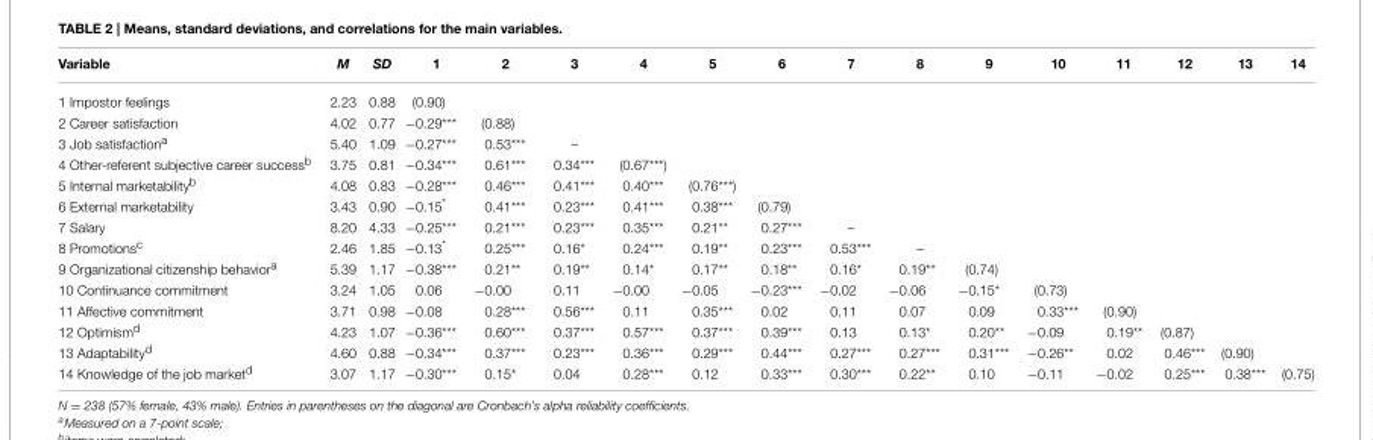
<table><thead><tr><td>Variable</td><td>M</td><td>SD</td><td>1</td><td>2</td><td>3</td><td>4</td><td>5</td><td>6</td><td>7</td><td>8</td><td>9</td><td>10</td><td>11</td><td>12</td><td>13</td><td>14</td></tr></thead><tbody><tr><td>1 Impostor feelings</td><td>2.23</td><td>0.88</td><td>(0.90)</td><td></td><td></td><td></td><td></td><td></td><td></td><td></td><td></td><td></td><td></td><td></td><td></td><td></td></tr><tr><td>2 Career satisfaction</td><td>4.02</td><td>0.77</td><td>−0.29***</td><td>(0.88)</td><td></td><td></td><td></td><td></td><td></td><td></td><td></td><td></td><td></td><td></td><td></td><td></td></tr><tr><td>3 Job satisfaction<sup>a</sup></td><td>5.40</td><td>1.09</td><td>−0.27***</td><td>0.53***</td><td>–</td><td></td><td></td><td></td><td></td><td></td><td></td><td></td><td></td><td></td><td></td><td></td></tr><tr><td>4 Other-referent subjective career success<sup>b</sup></td><td>3.75</td><td>0.81</td><td>−0.34***</td><td>0.61***</td><td>0.34***</td><td>(0.67***)</td><td></td><td></td><td></td><td></td><td></td><td></td><td></td><td></td><td></td><td></td></tr><tr><td>5 Internal marketability<sup>b</sup></td><td>4.08</td><td>0.83</td><td>−0.28***</td><td>0.46***</td><td>0.41***</td><td>0.40***</td><td>(0.76***)</td><td></td><td></td><td></td><td></td><td></td><td></td><td></td><td></td><td></td></tr><tr><td>6 External marketability</td><td>3.43</td><td>0.90</td><td>−0.15*</td><td>0.41***</td><td>0.23***</td><td>0.41***</td><td>0.38***</td><td>(0.79)</td><td></td><td></td><td></td><td></td><td></td><td></td><td></td><td></td></tr><tr><td>7 Salary</td><td>8.20</td><td>4.33</td><td>−0.25***</td><td>0.21***</td><td>0.23***</td><td>0.35***</td><td>0.21**</td><td>0.27***</td><td>–</td><td></td><td></td><td></td><td></td><td></td><td></td><td></td></tr><tr><td>8 Promotions<sup>c</sup></td><td>2.46</td><td>1.85</td><td>−0.13*</td><td>0.25***</td><td>0.16*</td><td>0.24***</td><td>0.19**</td><td>0.23***</td><td>0.53***</td><td>–</td><td></td><td></td><td></td><td></td><td></td><td></td></tr><tr><td>9 Organizational citizenship behavior<sup>a</sup></td><td>5.39</td><td>1.17</td><td>−0.38***</td><td>0.21**</td><td>0.19**</td><td>0.14*</td><td>0.17**</td><td>0.18**</td><td>0.16*</td><td>0.19**</td><td>(0.74)</td><td></td><td></td><td></td><td></td><td></td></tr><tr><td>10 Continuance commitment</td><td>3.24</td><td>1.05</td><td>0.06</td><td>−0.00</td><td>0.11</td><td>−0.00</td><td>−0.05</td><td>−0.23***</td><td>−0.02</td><td>−0.06</td><td>−0.15*</td><td>(0.73)</td><td></td><td></td><td></td><td></td></tr><tr><td>11 Affective commitment</td><td>3.71</td><td>0.98</td><td>−0.08</td><td>0.28***</td><td>0.56***</td><td>0.11</td><td>0.35***</td><td>0.02</td><td>0.11</td><td>0.07</td><td>0.09</td><td>0.33***</td><td>(0.90)</td><td></td><td></td><td></td></tr><tr><td>12 Optimism<sup>d</sup></td><td>4.23</td><td>1.07</td><td>−0.36***</td><td>0.60***</td><td>0.37***</td><td>0.57***</td><td>0.37***</td><td>0.39***</td><td>0.13</td><td>0.13*</td><td>0.20**</td><td>−0.09</td><td>0.19**</td><td>(0.87)</td><td></td><td></td></tr><tr><td>13 Adaptability<sup>d</sup></td><td>4.60</td><td>0.88</td><td>−0.34***</td><td>0.37***</td><td>0.23***</td><td>0.36***</td><td>0.29***</td><td>0.44***</td><td>0.27***</td><td>0.27***</td><td>0.31***</td><td>−0.26**</td><td>0.02</td><td>0.46***</td><td>(0.90)</td><td></td></tr><tr><td>14 Knowledge of the job market<sup>d</sup></td><td>3.07</td><td>1.17</td><td>−0.30***</td><td>0.15*</td><td>0.04</td><td>0.28***</td><td>0.12</td><td>0.33***</td><td>0.30***</td><td>0.22**</td><td>0.10</td><td>−0.11</td><td>−0.02</td><td>0.25***</td><td>0.38***</td><td>(0.75)</td></tr></tbody></table>